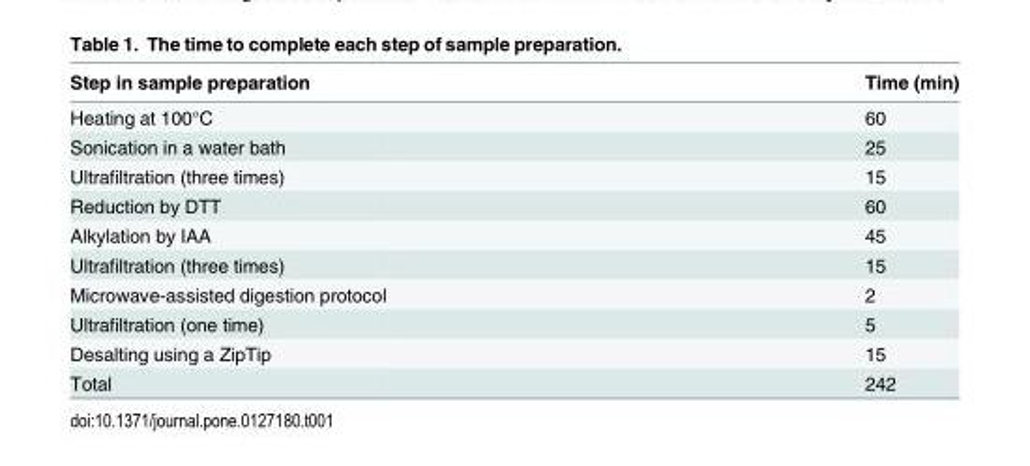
<table><thead><tr><td>Step in sample preparation</td><td>Time (min)</td></tr></thead><tbody><tr><td>Heating at 100°C</td><td>60</td></tr><tr><td>Sonication in a water bath</td><td>25</td></tr><tr><td>Ultrafiltration (three times)</td><td>15</td></tr><tr><td>Reduction by DTT</td><td>60</td></tr><tr><td>Alkylation by IAA</td><td>45</td></tr><tr><td>Ultrafiltration (three times)</td><td>15</td></tr><tr><td>Microwave-assisted digestion protocol</td><td>2</td></tr><tr><td>Ultrafiltration (one time)</td><td>5</td></tr><tr><td>Desalting using a ZipTip</td><td>15</td></tr><tr><td>Total</td><td>242</td></tr></tbody></table>